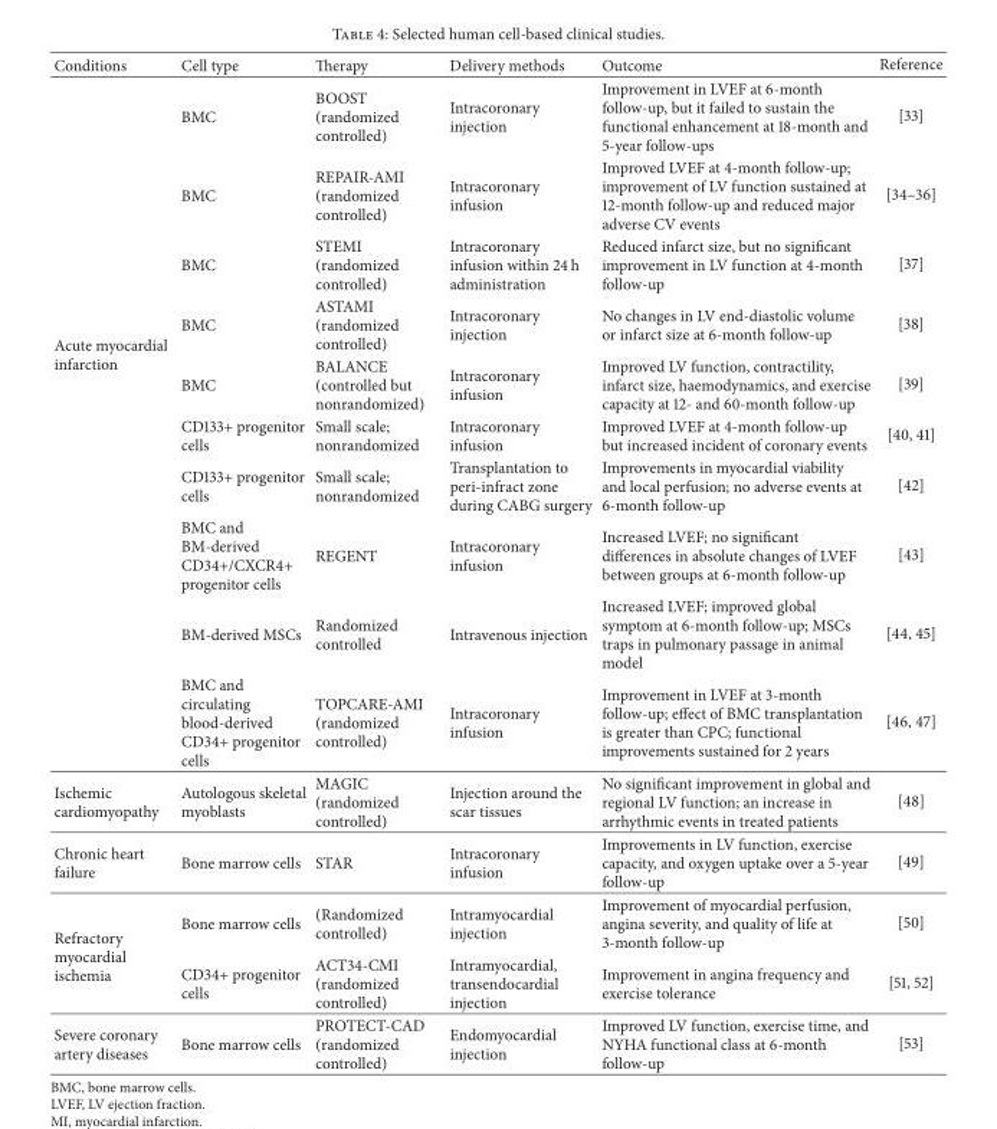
<table><thead><tr><td>Conditions</td><td>Cell type</td><td>Therapy</td><td>Delivery methods</td><td>Outcome</td><td>Reference</td></tr></thead><tbody><tr><td rowspan="10">Acute myocardial infarction</td><td>BMC</td><td>BOOST (randomized controlled)</td><td>Intracoronary injection</td><td>Improvement in LVEF at 6-month follow-up, but it failed to sustain the functional enhancement at 18-month and 5-year follow-ups</td><td>[33]</td></tr><tr><td>BMC</td><td>REPAIR-AMI (randomized controlled)</td><td>Intracoronary infusion</td><td>Improved LVEF at 4-month follow-up; improvement of LV function sustained at 12-month follow-up and reduced major adverse CV events</td><td>[34–36]</td></tr><tr><td>BMC</td><td>STEMI (randomized controlled)</td><td>Intracoronary infusion within 24 h administration</td><td>Reduced infarct size, but no significant improvement in LV function at 4-month follow-up</td><td>[37]</td></tr><tr><td>BMC</td><td>ASTAMI (randomized controlled)</td><td>Intracoronary injection</td><td>No changes in LV end-diastolic volume or infarct size at 6-month follow-up</td><td>[38]</td></tr><tr><td>BMC</td><td>BALANCE (controlled but nonrandomized)</td><td>Intracoronary infusion</td><td>Improved LV function, contractility, infarct size, haemodynamics, and exercise capacity at 12- and 60-month follow-up</td><td>[39]</td></tr><tr><td>CD133+ progenitor cells</td><td>Small scale; nonrandomized</td><td>Intracoronary infusion</td><td>Improved LVEF at 4-month follow-up but increased incident of coronary events</td><td>[40, 41]</td></tr><tr><td>CD133+ progenitor cells</td><td>Small scale; nonrandomized</td><td>Transplantation to peri-infract zone during CABG surgery</td><td>Improvements in myocardial viability and local perfusion; no adverse events at 6-month follow-up</td><td>[42]</td></tr><tr><td>BMC and BM-derived CD34+/CXCR4+ progenitor cells</td><td>REGENT</td><td>Intracoronary infusion</td><td>Increased LVEF; no significant differences in absolute changes of LVEF between groups at 6-month follow-up</td><td>[43]</td></tr><tr><td>BM-derived MSCs</td><td>Randomized controlled</td><td>Intravenous injection</td><td>Increased LVEF; improved global symptom at 6-month follow-up; MSCs traps in pulmonary passage in animal model</td><td>[44, 45]</td></tr><tr><td>BMC and circulating blood-derived CD34+ progenitor cells</td><td>TOPCARE-AMI (randomized controlled)</td><td>Intracoronary infusion</td><td>Improvement in LVEF at 3-month follow-up; effect of BMC transplantation is greater than CPC; functional improvements sustained for 2 years</td><td>[46, 47]</td></tr><tr><td>Ischemic cardiomyopathy</td><td>Autologous skeletal myoblasts</td><td>MAGIC (randomized controlled)</td><td>Injection around the scar tissues</td><td>No significant improvement in global and regional LV function; an increase in arrhythmic events in treated patients</td><td>[48]</td></tr><tr><td>Chronic heart failure</td><td>Bone marrow cells</td><td>STAR</td><td>Intracoronary infusion</td><td>Improvements in LV function, exercise capacity, and oxygen uptake over a 5-year follow-up</td><td>[49]</td></tr><tr><td rowspan="2">Refractory myocardial ischemia</td><td>Bone marrow cells</td><td>(Randomized controlled)</td><td>Intramyocardial injection</td><td>Improvement of myocardial perfusion, angina severity, and quality of life at 3-month follow-up</td><td>[50]</td></tr><tr><td>CD34+ progenitor cells</td><td>ACT34-CMI (randomized controlled)</td><td>Intramyocardial, transendocardial injection</td><td>Improvement in angina frequency and exercise tolerance</td><td>[51, 52]</td></tr><tr><td>Severe coronary artery diseases</td><td>Bone marrow cells</td><td>PROTECT-CAD (randomized controlled)</td><td>Endomyocardial injection</td><td>Improved LV function, exercise time, and NYHA functional class at 6-month follow-up</td><td>[53]</td></tr></tbody></table>